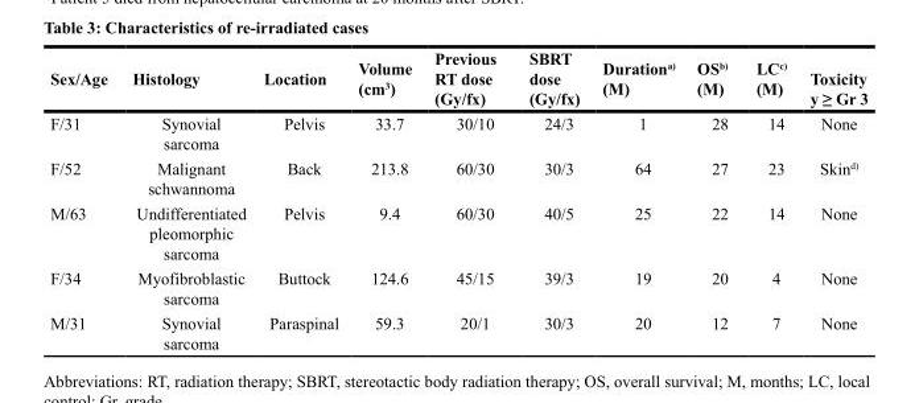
<table><thead><tr><td>Sex/Age</td><td>Histology</td><td>Location</td><td>Volume (cm<sup>3</sup>)</td><td>Previous RT dose (Gy/fx)</td><td>SBRT dose (Gy/fx)</td><td>Duration<sup>a)</sup> (M)</td><td>OS<sup>b)</sup> (M)</td><td>LC<sup>c)</sup> (M)</td><td>Toxicity y ≥ Gr 3</td></tr></thead><tbody><tr><td>F/31</td><td>Synovial sarcoma</td><td>Pelvis</td><td>33.7</td><td>30/10</td><td>24/3</td><td>1</td><td>28</td><td>14</td><td>None</td></tr><tr><td>F/52</td><td>Malignant schwannoma</td><td>Back</td><td>213.8</td><td>60/30</td><td>30/3</td><td>64</td><td>27</td><td>23</td><td>Skin<sup>d)</sup></td></tr><tr><td>M/63</td><td>Undifferentiated pleomorphic sarcoma</td><td>Pelvis</td><td>9.4</td><td>60/30</td><td>40/5</td><td>25</td><td>22</td><td>14</td><td>None</td></tr><tr><td>F/34</td><td>Myofibroblastic sarcoma</td><td>Buttock</td><td>124.6</td><td>45/15</td><td>39/3</td><td>19</td><td>20</td><td>4</td><td>None</td></tr><tr><td>M/31</td><td>Synovial sarcoma</td><td>Paraspinal</td><td>59.3</td><td>20/1</td><td>30/3</td><td>20</td><td>12</td><td>7</td><td>None</td></tr></tbody></table>